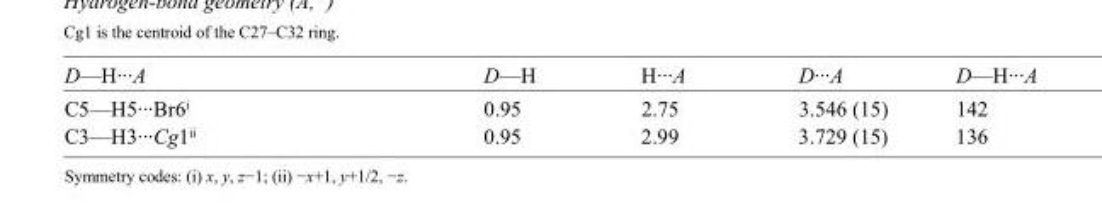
<table><tbody><tr><td>D—H···A</td><td>D—H</td><td>H···A</td><td>D···A</td><td>D—H···A</td></tr><tr><td>C5—H5···Br6<sup>i</sup></td><td>0.95</td><td>2.75</td><td>3.546 (15)</td><td>142</td></tr><tr><td>C3—H3···Cg1<sup>ii</sup></td><td>0.95</td><td>2.99</td><td>3.729 (15)</td><td>136</td></tr></tbody></table>